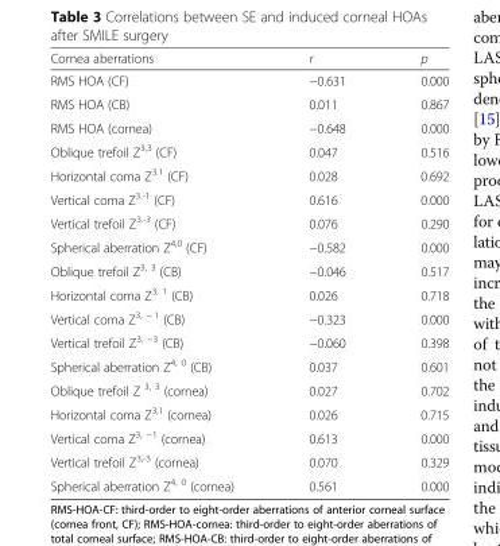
<table><thead><tr><td>Cornea aberrations</td><td>r</td><td>p</td></tr></thead><tbody><tr><td>RMS HOA (CF)</td><td>−0.631</td><td>0.000</td></tr><tr><td>RMS HOA (CB)</td><td>0.011</td><td>0.867</td></tr><tr><td>RMS HOA (cornea)</td><td>−0.648</td><td>0.000</td></tr><tr><td>Oblique trefoil Z<sup>3,3</sup> (CF)</td><td>0.047</td><td>0.516</td></tr><tr><td>Horizontal coma Z<sup>3.1</sup> (CF)</td><td>0.028</td><td>0.692</td></tr><tr><td>Vertical coma Z<sup>3.-1</sup> (CF)</td><td>0.616</td><td>0.000</td></tr><tr><td>Vertical trefoil Z<sup>3.-3</sup> (CF)</td><td>0.076</td><td>0.290</td></tr><tr><td>Spherical aberration Z<sup>4,0</sup> (CF)</td><td>−0.582</td><td>0.000</td></tr><tr><td>Oblique trefoil Z<sup>3, 3</sup> (CB)</td><td>−0.046</td><td>0.517</td></tr><tr><td>Horizontal coma Z<sup>3, 1</sup> (CB)</td><td>0.026</td><td>0.718</td></tr><tr><td>Vertical coma Z<sup>3, − 1</sup> (CB)</td><td>−0.323</td><td>0.000</td></tr><tr><td>Vertical trefoil Z<sup>3, −3</sup> (CB)</td><td>−0.060</td><td>0.398</td></tr><tr><td>Spherical aberration Z<sup>4, 0</sup> (CB)</td><td>0.037</td><td>0.601</td></tr><tr><td>Oblique trefoil Z <sup>3, 3</sup> (cornea)</td><td>0.027</td><td>0.702</td></tr><tr><td>Horizontal coma Z<sup>3,1</sup> (cornea)</td><td>0.026</td><td>0.715</td></tr><tr><td>Vertical coma Z<sup>3, −1</sup> (cornea)</td><td>0.613</td><td>0.000</td></tr><tr><td>Vertical trefoil Z<sup>3,-3</sup> (cornea)</td><td>0.070</td><td>0.329</td></tr><tr><td>Spherical aberration Z<sup>4, 0</sup> (cornea)</td><td>0.561</td><td>0.000</td></tr></tbody></table>